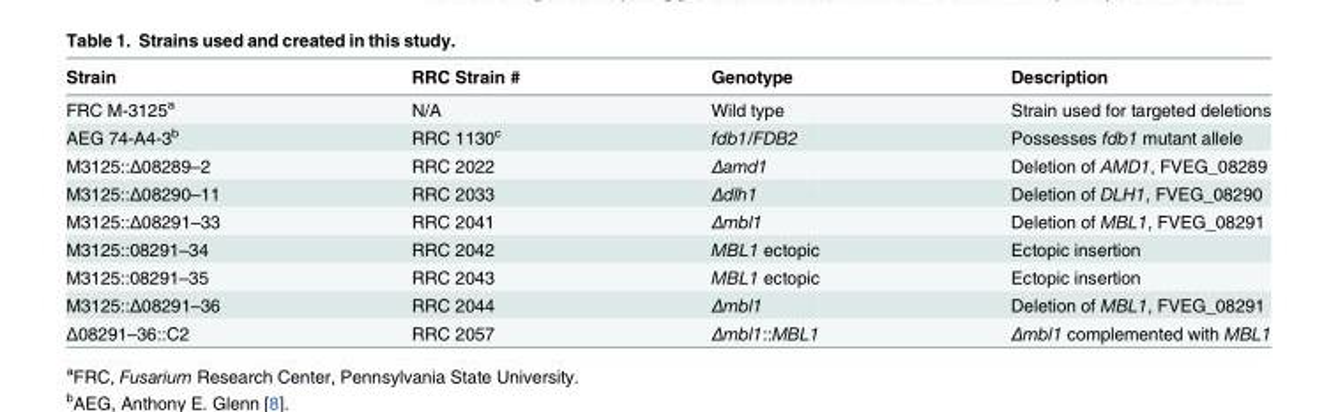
<table><thead><tr><td>Strain</td><td>RRC Strain #</td><td>Genotype</td><td>Description</td></tr></thead><tbody><tr><td>FRC M-3125<sup>a</sup></td><td>N/A</td><td>Wild type</td><td>Strain used for targeted deletions</td></tr><tr><td>AEG 74-A4-3<sup>b</sup></td><td>RRC 1130<sup>c</sup></td><td>fdb1/FDB2</td><td>Possesses fdb1 mutant allele</td></tr><tr><td>M3125::Δ08289–2</td><td>RRC 2022</td><td>Δamd1</td><td>Deletion of AMD1, FVEG_08289</td></tr><tr><td>M3125::Δ08290–11</td><td>RRC 2033</td><td>Δdlh1</td><td>Deletion of DLH1, FVEG_08290</td></tr><tr><td>M3125::Δ08291–33</td><td>RRC 2041</td><td>Δmbl1</td><td>Deletion of MBL1, FVEG_08291</td></tr><tr><td>M3125::08291–34</td><td>RRC 2042</td><td>MBL1 ectopic</td><td>Ectopic insertion</td></tr><tr><td>M3125::08291–35</td><td>RRC 2043</td><td>MBL1 ectopic</td><td>Ectopic insertion</td></tr><tr><td>M3125::Δ08291–36</td><td>RRC 2044</td><td>Δmbl1</td><td>Deletion of MBL1, FVEG_08291</td></tr><tr><td>Δ08291–36::C2</td><td>RRC 2057</td><td>Δmbl1::MBL1</td><td>Δmbl1 complemented with MBL1</td></tr></tbody></table>